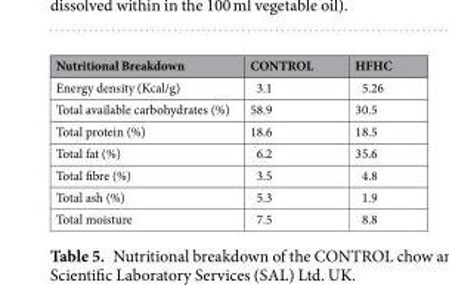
<table><thead><tr><td>Nutritional Breakdown</td><td>CONTROL</td><td>HFHC</td></tr></thead><tbody><tr><td>Energy density (Kcal/g)</td><td>3.1</td><td>5.26</td></tr><tr><td>Total available carbohydrates (%)</td><td>58.9</td><td>30.5</td></tr><tr><td>Total protein (%)</td><td>18.6</td><td>18.5</td></tr><tr><td>Total fat (%)</td><td>6.2</td><td>35.6</td></tr><tr><td>Total fibre (%)</td><td>3.5</td><td>4.8</td></tr><tr><td>Total ash (%)</td><td>5.3</td><td>1.9</td></tr><tr><td>Total moisture</td><td>7.5</td><td>8.8</td></tr></tbody></table>